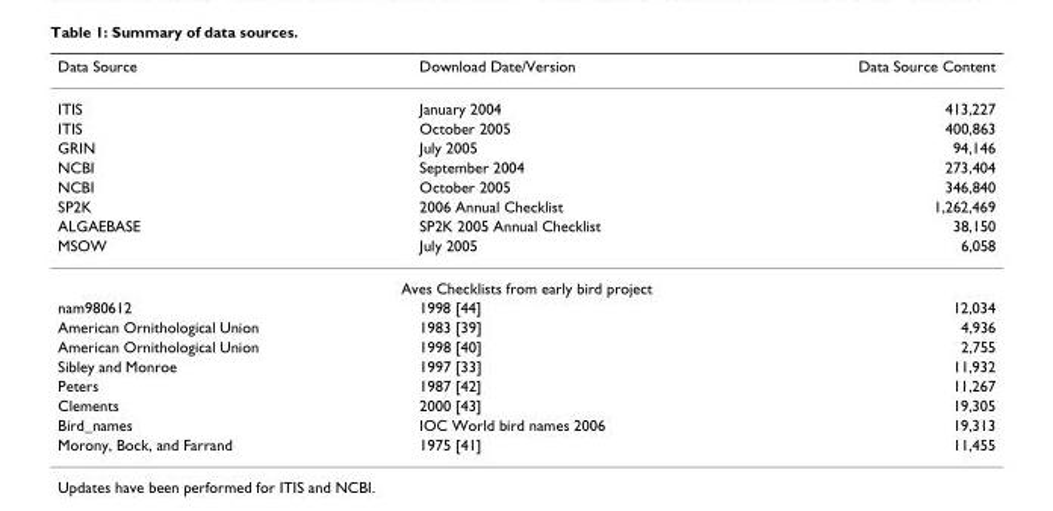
<table><thead><tr><td>Data Source</td><td>Download Date/Version</td><td>Data Source Content</td></tr></thead><tbody><tr><td>ITIS</td><td>January 2004</td><td>413,227</td></tr><tr><td>ITIS</td><td>October 2005</td><td>400,863</td></tr><tr><td>GRIN</td><td>July 2005</td><td>94,146</td></tr><tr><td>NCBI</td><td>September 2004</td><td>273,404</td></tr><tr><td>NCBI</td><td>October 2005</td><td>346,840</td></tr><tr><td>SP2K</td><td>2006 Annual Checklist</td><td>1,262,469</td></tr><tr><td>ALGAEBASE</td><td>SP2K 2005 Annual Checklist</td><td>38,150</td></tr><tr><td>MSOW</td><td>July 2005</td><td>6,058</td></tr><tr><td colspan="3">Aves Checklists from early bird project</td></tr><tr><td>nam980612</td><td>1998 [44]</td><td>12,034</td></tr><tr><td>American Ornithological Union</td><td>1983 [39]</td><td>4,936</td></tr><tr><td>American Ornithological Union</td><td>1998 [40]</td><td>2,755</td></tr><tr><td>Sibley and Monroe</td><td>1997 [33]</td><td>11,932</td></tr><tr><td>Peters</td><td>1987 [42]</td><td>11,267</td></tr><tr><td>Clements</td><td>2000 [43]</td><td>19,305</td></tr><tr><td>Bird_names</td><td>IOC World bird names 2006</td><td>19,313</td></tr><tr><td>Morony, Bock, and Farrand</td><td>1975 [41]</td><td>11,455</td></tr></tbody></table>